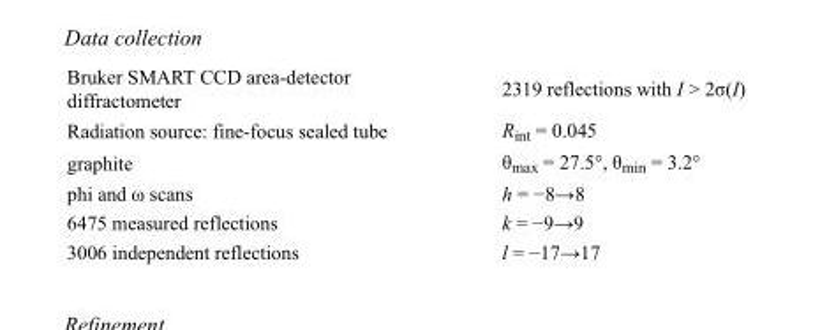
<table><tbody><tr><td>Bruker SMART CCD area-detector diffractometer</td><td>2319 reflections with I &gt; 2σ(I)</td></tr><tr><td>Radiation source: fine-focus sealed tube</td><td>R<sub>int</sub> = 0.045</td></tr><tr><td>graphite</td><td>θ<sub>max</sub> = 27.5°, θ<sub>min</sub> = 3.2°</td></tr><tr><td>phi and ω scans</td><td>h = −8→8</td></tr><tr><td>6475 measured reflections</td><td>k = −9→9</td></tr><tr><td>3006 independent reflections</td><td>l = −17→17</td></tr></tbody></table>